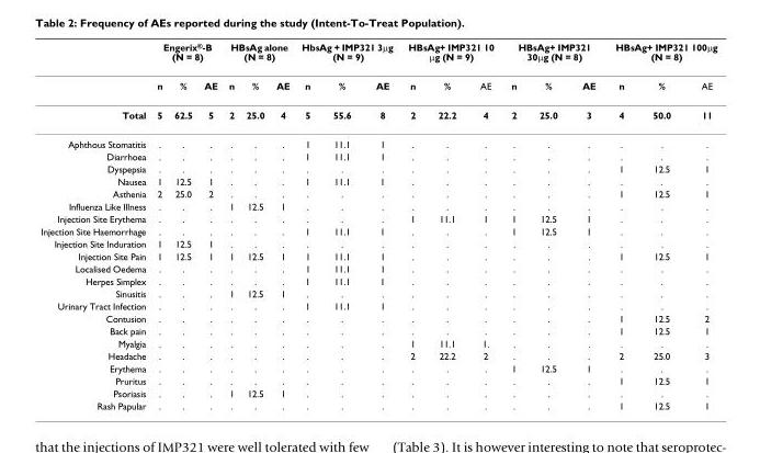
<table><thead><tr><td rowspan="2"></td><td colspan="3">Engerix<sup>®</sup>-B (N = 8)</td><td colspan="3">HBsAg alone (N = 8)</td><td colspan="3">HbsAg + IMP321 3μg (N = 9)</td><td colspan="3">HBsAg+ IMP321 10 μg (N = 9)</td><td colspan="3">HBsAg+ IMP321 30μg (N = 8)</td><td colspan="3">HBsAg+ IMP321 100μg (N = 8)</td></tr><tr><td>n</td><td>%</td><td>AE</td><td>n</td><td>%</td><td>AE</td><td>n</td><td>%</td><td>AE</td><td>n</td><td>%</td><td>AE</td><td>n</td><td>%</td><td>AE</td><td>n</td><td>%</td><td>AE</td></tr></thead><tbody><tr><td>Total</td><td>5</td><td>62.5</td><td>5</td><td>2</td><td>25.0</td><td>4</td><td>5</td><td>55.6</td><td>8</td><td>2</td><td>22.2</td><td>4</td><td>2</td><td>25.0</td><td>3</td><td>4</td><td>50.0</td><td>11</td></tr><tr><td>Aphthous Stomatitis</td><td>.</td><td>.</td><td>.</td><td>.</td><td>.</td><td>.</td><td>1</td><td>11.1</td><td>1</td><td>.</td><td>.</td><td>.</td><td>.</td><td>.</td><td>.</td><td>.</td><td>.</td><td>.</td></tr><tr><td>Diarrhoea</td><td>.</td><td>.</td><td>.</td><td>.</td><td>.</td><td>.</td><td>1</td><td>11.1</td><td>1</td><td>.</td><td>.</td><td>.</td><td>.</td><td>.</td><td>.</td><td>.</td><td>.</td><td>.</td></tr><tr><td>Dyspepsia</td><td>.</td><td>.</td><td>.</td><td>.</td><td>.</td><td>.</td><td>.</td><td>.</td><td>.</td><td>.</td><td>.</td><td>.</td><td>.</td><td>.</td><td>.</td><td>1</td><td>12.5</td><td>1</td></tr><tr><td>Nausea</td><td>1</td><td>12.5</td><td>1</td><td>.</td><td>.</td><td>.</td><td>1</td><td>11.1</td><td>1</td><td>.</td><td>.</td><td>.</td><td>.</td><td>.</td><td>.</td><td>.</td><td>.</td><td>.</td></tr><tr><td>Asthenia</td><td>2</td><td>25.0</td><td>2</td><td>.</td><td>.</td><td>.</td><td>.</td><td>.</td><td>.</td><td>.</td><td>.</td><td>.</td><td>.</td><td>.</td><td>.</td><td>1</td><td>12.5</td><td>1</td></tr><tr><td>Influenza Like Illness</td><td>.</td><td>.</td><td>.</td><td>1</td><td>12.5</td><td>1</td><td>.</td><td>.</td><td>.</td><td>.</td><td>.</td><td>.</td><td>.</td><td>.</td><td>.</td><td>.</td><td>.</td><td>.</td></tr><tr><td>Injection Site Erythema</td><td>.</td><td>.</td><td>.</td><td>.</td><td>.</td><td>.</td><td>.</td><td>.</td><td>.</td><td>1</td><td>11.1</td><td>1</td><td>1</td><td>12.5</td><td>1</td><td>.</td><td>.</td><td>.</td></tr><tr><td>Injection Site Haemorrhage</td><td>.</td><td>.</td><td>.</td><td>.</td><td>.</td><td>.</td><td>1</td><td>11.1</td><td>1</td><td>.</td><td>.</td><td>.</td><td>1</td><td>12.5</td><td>1</td><td>.</td><td>.</td><td>.</td></tr><tr><td>Injection Site Induration</td><td>1</td><td>12.5</td><td>1</td><td>.</td><td>.</td><td>.</td><td>.</td><td>.</td><td>.</td><td>.</td><td>.</td><td>.</td><td>.</td><td>.</td><td>.</td><td>.</td><td>.</td><td>.</td></tr><tr><td>Injection Site Pain</td><td>1</td><td>12.5</td><td>1</td><td>1</td><td>12.5</td><td>1</td><td>1</td><td>11.1</td><td>1</td><td>.</td><td>.</td><td>.</td><td>.</td><td>.</td><td>.</td><td>1</td><td>12.5</td><td>1</td></tr><tr><td>Localised Oedema</td><td>.</td><td>.</td><td>.</td><td>.</td><td>.</td><td>.</td><td>1</td><td>11.1</td><td>1</td><td>.</td><td>.</td><td>.</td><td>.</td><td>.</td><td>.</td><td>.</td><td>.</td><td>.</td></tr><tr><td>Herpes Simplex</td><td>.</td><td>.</td><td>.</td><td>.</td><td>.</td><td>.</td><td>1</td><td>11.1</td><td>1</td><td>.</td><td>.</td><td>.</td><td>.</td><td>.</td><td>.</td><td>.</td><td>.</td><td>.</td></tr><tr><td>Sinusitis</td><td>.</td><td>.</td><td>.</td><td>1</td><td>12.5</td><td>1</td><td>.</td><td>.</td><td>.</td><td>.</td><td>.</td><td>.</td><td>.</td><td>.</td><td>.</td><td>.</td><td>.</td><td>.</td></tr><tr><td>Urinary Tract Infection</td><td>.</td><td>.</td><td>.</td><td>.</td><td>.</td><td>.</td><td>1</td><td>11.1</td><td>1</td><td>.</td><td>.</td><td>.</td><td>.</td><td>.</td><td>.</td><td>.</td><td>.</td><td>.</td></tr><tr><td>Contusion</td><td>.</td><td>.</td><td>.</td><td>.</td><td>.</td><td>.</td><td>.</td><td>.</td><td>.</td><td>.</td><td>.</td><td>.</td><td>.</td><td>.</td><td>.</td><td>1</td><td>12.5</td><td>2</td></tr><tr><td>Back pain</td><td>.</td><td>.</td><td>.</td><td>.</td><td>.</td><td>.</td><td>.</td><td>.</td><td>.</td><td>.</td><td>.</td><td>.</td><td>.</td><td>.</td><td>.</td><td>1</td><td>12.5</td><td>1</td></tr><tr><td>Myalgia</td><td>.</td><td>.</td><td>.</td><td>.</td><td>.</td><td>.</td><td>.</td><td>.</td><td>.</td><td>1</td><td>11.1</td><td>1.</td><td>.</td><td>.</td><td>.</td><td>.</td><td>.</td><td>.</td></tr><tr><td>Headache</td><td>.</td><td>.</td><td>.</td><td>.</td><td>.</td><td>.</td><td>.</td><td>.</td><td>.</td><td>2</td><td>22.2</td><td>2</td><td>.</td><td>.</td><td>.</td><td>2</td><td>25.0</td><td>3</td></tr><tr><td>Erythema</td><td>.</td><td>.</td><td>.</td><td>.</td><td>.</td><td>.</td><td>.</td><td>.</td><td>.</td><td>.</td><td>.</td><td>.</td><td>1</td><td>12.5</td><td>1</td><td>.</td><td>.</td><td>.</td></tr><tr><td>Pruritus</td><td>.</td><td>.</td><td>.</td><td>.</td><td>.</td><td>.</td><td>.</td><td>.</td><td>.</td><td>.</td><td>.</td><td>.</td><td>.</td><td>.</td><td>.</td><td>1</td><td>12.5</td><td>1</td></tr><tr><td>Psoriasis</td><td>.</td><td>.</td><td>.</td><td>1</td><td>12.5</td><td>1</td><td>.</td><td>.</td><td>.</td><td>.</td><td>.</td><td>.</td><td>.</td><td>.</td><td>.</td><td>.</td><td>.</td><td>.</td></tr><tr><td>Rash Papular</td><td>.</td><td>.</td><td>.</td><td>.</td><td>.</td><td>.</td><td>.</td><td>.</td><td>.</td><td>.</td><td>.</td><td>.</td><td>.</td><td>.</td><td>.</td><td>1</td><td>12.5</td><td>1</td></tr></tbody></table>